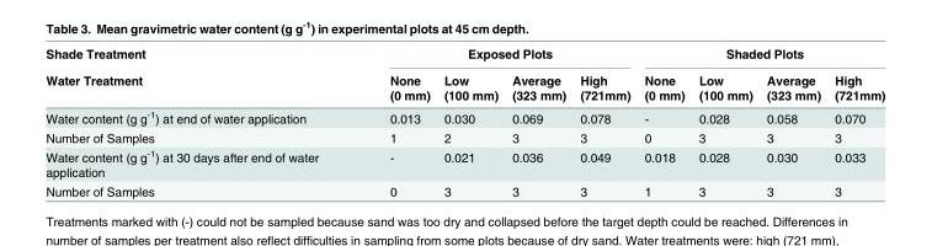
<table><thead><tr><td rowspan="2">Shade Treatment Water Treatment</td><td colspan="4">Exposed Plots</td><td colspan="4">Shaded Plots</td></tr><tr><td>None (0 mm)</td><td>Low (100 mm)</td><td>Average (323 mm)</td><td>High (721mm)</td><td>None (0 mm)</td><td>Low (100 mm)</td><td>Average (323 mm)</td><td>High (721mm)</td></tr></thead><tbody><tr><td>Water content (g g<sup>-1</sup>) at end of water application</td><td>0.013</td><td>0.030</td><td>0.069</td><td>0.078</td><td>-</td><td>0.028</td><td>0.058</td><td>0.070</td></tr><tr><td>Number of Samples</td><td>1</td><td>2</td><td>3</td><td>3</td><td>0</td><td>3</td><td>3</td><td>3</td></tr><tr><td>Water content (g g<sup>-1</sup>) at 30 days after end of water application</td><td>-</td><td>0.021</td><td>0.036</td><td>0.049</td><td>0.018</td><td>0.028</td><td>0.030</td><td>0.033</td></tr><tr><td>Number of Samples</td><td>0</td><td>3</td><td>3</td><td>3</td><td>1</td><td>3</td><td>3</td><td>3</td></tr></tbody></table>